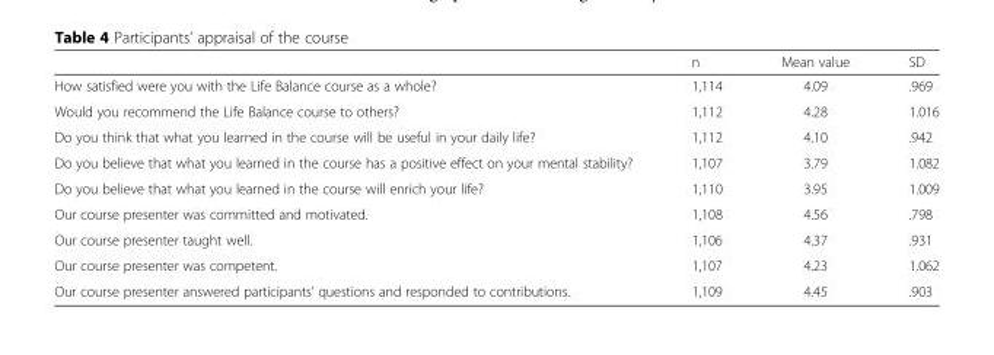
<table><thead><tr><td></td><td>n</td><td>Mean value</td><td>SD</td></tr></thead><tbody><tr><td>How satisfied were you with the Life Balance course as a whole?</td><td>1,114</td><td>4.09</td><td>.969</td></tr><tr><td>Would you recommend the Life Balance course to others?</td><td>1,112</td><td>4.28</td><td>1.016</td></tr><tr><td>Do you think that what you learned in the course will be useful in your daily life?</td><td>1,112</td><td>4.10</td><td>.942</td></tr><tr><td>Do you believe that what you learned in the course has a positive effect on your mental stability?</td><td>1,107</td><td>3.79</td><td>1.082</td></tr><tr><td>Do you believe that what you learned in the course will enrich your life?</td><td>1,110</td><td>3.95</td><td>1.009</td></tr><tr><td>Our course presenter was committed and motivated.</td><td>1,108</td><td>4.56</td><td>.798</td></tr><tr><td>Our course presenter taught well.</td><td>1,106</td><td>4.37</td><td>.931</td></tr><tr><td>Our course presenter was competent.</td><td>1,107</td><td>4.23</td><td>1.062</td></tr><tr><td>Our course presenter answered participants’ questions and responded to contributions.</td><td>1,109</td><td>4.45</td><td>.903</td></tr></tbody></table>